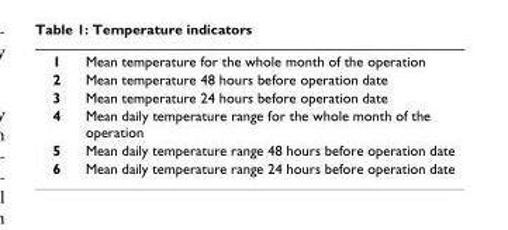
<table><tbody><tr><td>1</td><td>Mean temperature for the whole month of the operation</td></tr><tr><td>2</td><td>Mean temperature 48 hours before operation date</td></tr><tr><td>3</td><td>Mean temperature 24 hours before operation date</td></tr><tr><td>4</td><td>Mean daily temperature range for the whole month of the operation</td></tr><tr><td>5</td><td>Mean daily temperature range 48 hours before operation date</td></tr><tr><td>6</td><td>Mean daily temperature range 24 hours before operation date</td></tr></tbody></table>